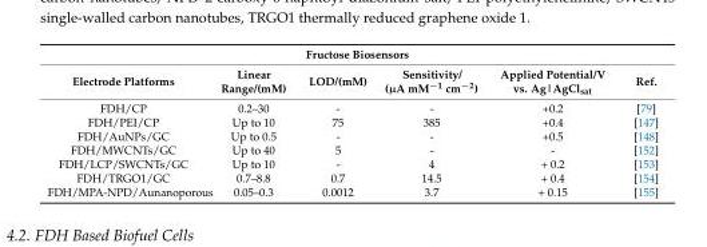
<table><thead><tr><td colspan="6">Fructose Biosensors</td></tr><tr><td>Electrode Platforms</td><td>Linear Range/(mM)</td><td>LOD/(mM)</td><td>Sensitivity/ (µA mM<sup>−1</sup> cm<sup>−2</sup>)</td><td>Applied Potential/V vs. Ag|AgCl<sub>sat</sub></td><td>Ref.</td></tr></thead><tbody><tr><td>FDH/CP</td><td>0.2–30</td><td>-</td><td>-</td><td>+0.2</td><td>[79]</td></tr><tr><td>FDH/PEI/CP</td><td>Up to 10</td><td>75</td><td>385</td><td>+0.4</td><td>[147]</td></tr><tr><td>FDH/AuNPs/GC</td><td>Up to 0.5</td><td>-</td><td>-</td><td>+0.5</td><td>[148]</td></tr><tr><td>FDH/MWCNTs/GC</td><td>Up to 40</td><td>5</td><td>-</td><td>-</td><td>[152]</td></tr><tr><td>FDH/LCP/SWCNTs/GC</td><td>Up to 10</td><td>-</td><td>4</td><td>+ 0.2</td><td>[153]</td></tr><tr><td>FDH/TRGO1/GC</td><td>0.7–8.8</td><td>0.7</td><td>14.5</td><td>+ 0.4</td><td>[154]</td></tr><tr><td>FDH/MPA-NPD/Aunanoporous</td><td>0.05–0.3</td><td>0.0012</td><td>3.7</td><td>+ 0.15</td><td>[155]</td></tr></tbody></table>